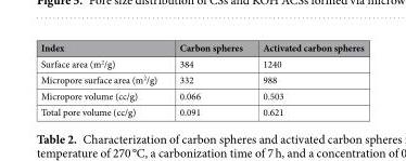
<table><thead><tr><td>Index</td><td>Carbon spheres</td><td>Activated carbon spheres</td></tr></thead><tbody><tr><td>Surface area (m<sup>2</sup>/g)</td><td>384</td><td>1240</td></tr><tr><td>Micropore surface area (m<sup>2</sup>/g)</td><td>332</td><td>988</td></tr><tr><td>Micropore volume (cc/g)</td><td>0.066</td><td>0.503</td></tr><tr><td>Total pore volume (cc/g)</td><td>0.091</td><td>0.621</td></tr></tbody></table>